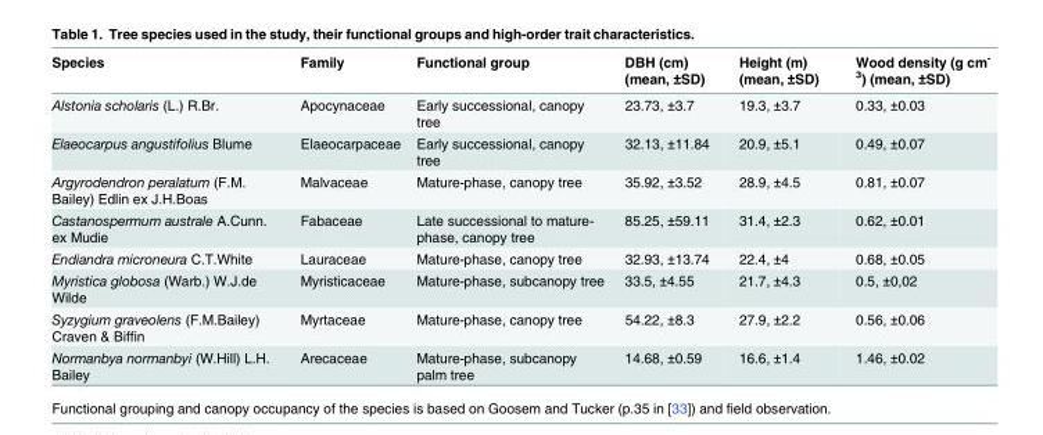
<table><thead><tr><td>Species</td><td>Family</td><td>Functional group</td><td>DBH (cm) (mean, ±SD)</td><td>Height (m) (mean, ±SD)</td><td>Wood density (g cm<sup>- 3</sup>) (mean, ±SD)</td></tr></thead><tbody><tr><td>Alstonia scholaris (L.) R.Br.</td><td>Apocynaceae</td><td>Early successional, canopy tree</td><td>23.73, ±3.7</td><td>19.3, ±3.7</td><td>0.33, ±0.03</td></tr><tr><td>Elaeocarpus angustifolius Blume</td><td>Elaeocarpaceae</td><td>Early successional, canopy tree</td><td>32.13, ±11.84</td><td>20.9, ±5.1</td><td>0.49, ±0.07</td></tr><tr><td>Argyrodendron peralatum (F.M. Bailey) Edlin ex J.H.Boas</td><td>Malvaceae</td><td>Mature-phase, canopy tree</td><td>35.92, ±3.52</td><td>28.9, ±4.5</td><td>0.81, ±0.07</td></tr><tr><td>Castanospermum australe A.Cunn. ex Mudie</td><td>Fabaceae</td><td>Late successional to mature- phase, canopy tree</td><td>85.25, ±59.11</td><td>31.4, ±2.3</td><td>0.62, ±0.01</td></tr><tr><td>Endiandra microneura C.T.White</td><td>Lauraceae</td><td>Mature-phase, canopy tree</td><td>32.93, ±13.74</td><td>22.4, ±4</td><td>0.68, ±0.05</td></tr><tr><td>Myristica globosa (Warb.) W.J.de Wilde</td><td>Myristicaceae</td><td>Mature-phase, subcanopy tree</td><td>33.5, ±4.55</td><td>21.7, ±4.3</td><td>0.5, ±0,02</td></tr><tr><td>Syzygium graveolens (F.M.Bailey) Craven &amp; Biffin</td><td>Myrtaceae</td><td>Mature-phase, canopy tree</td><td>54.22, ±8.3</td><td>27.9, ±2.2</td><td>0.56, ±0.06</td></tr><tr><td>Normanbya normanbyi (W.Hill) L.H. Bailey</td><td>Arecaceae</td><td>Mature-phase, subcanopy palm tree</td><td>14.68, ±0.59</td><td>16.6, ±1.4</td><td>1.46, ±0.02</td></tr></tbody></table>